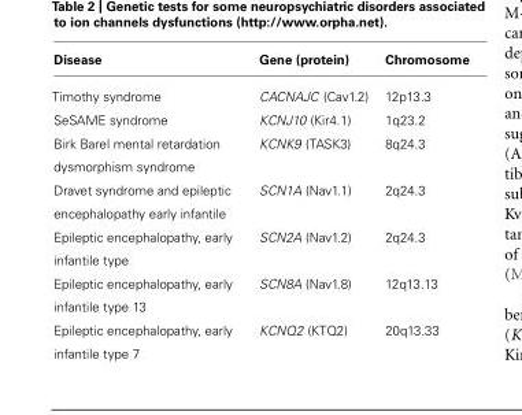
<table><thead><tr><td>Disease</td><td>Gene (protein)</td><td>Chromosome</td></tr></thead><tbody><tr><td>Timothy syndrome</td><td>CACNAJC (Cav1.2)</td><td>12p13.3</td></tr><tr><td>SeSAME syndrome</td><td>KCNJ10 (Kir4.1)</td><td>1q23.2</td></tr><tr><td>Birk Barel mental retardation dysmorphism syndrome</td><td>KCNK9 (TASK3)</td><td>8q24.3</td></tr><tr><td>Dravet syndrome and epileptic encephalopathy early infantile</td><td>SCN1A (Nav1.1)</td><td>2q24.3</td></tr><tr><td>Epileptic encephalopathy, early infantile type</td><td>SCN2A (Nav1.2)</td><td>2q24.3</td></tr><tr><td>Epileptic encephalopathy, early infantile type 13</td><td>SCN8A (Nav1.8)</td><td>12q13.13</td></tr><tr><td>Epileptic encephalopathy, early infantile type 7</td><td>KCNQ2 (KTQ2)</td><td>20q13.33</td></tr></tbody></table>